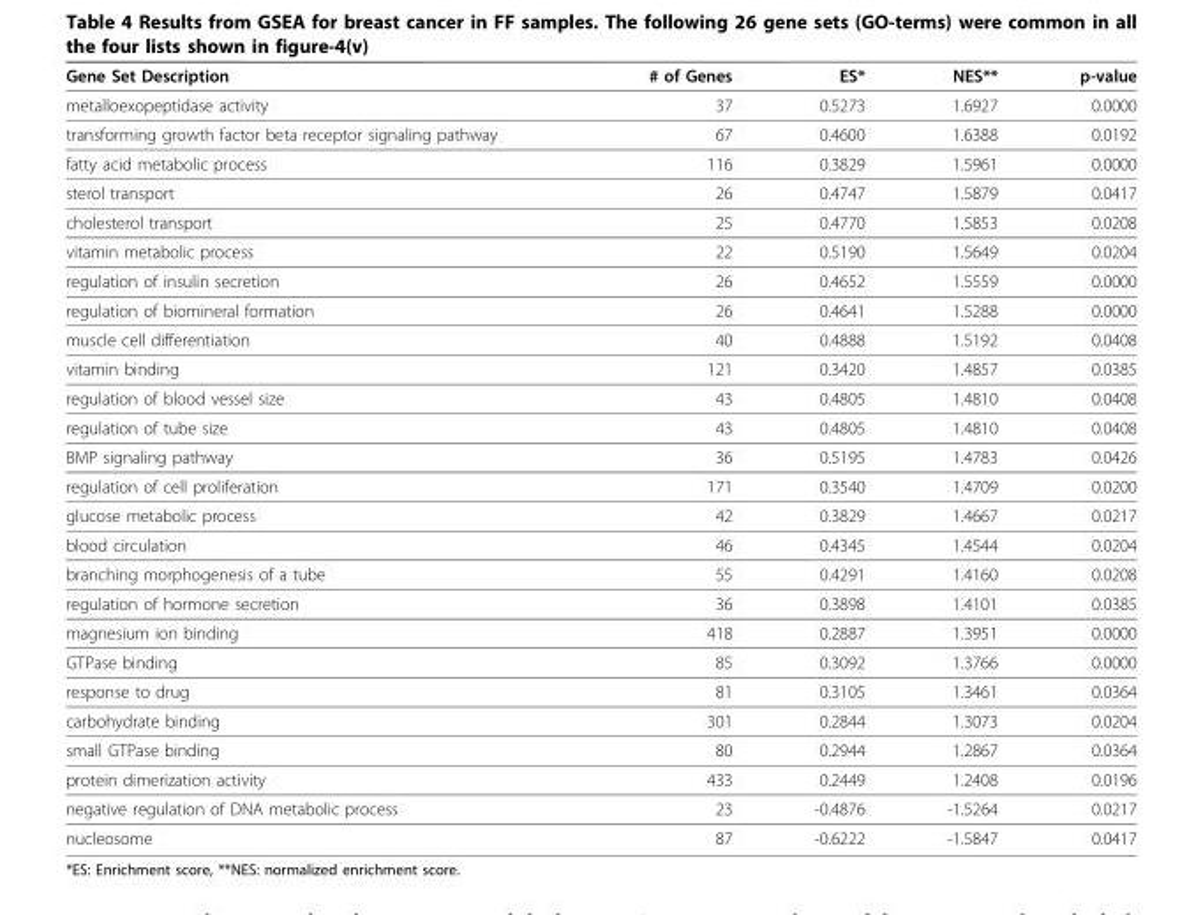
<table><thead><tr><td>Gene Set Description</td><td># of Genes</td><td>ES*</td><td>NES**</td><td>p-value</td></tr></thead><tbody><tr><td>metalloexopeptidase activity</td><td>37</td><td>0.5273</td><td>1.6927</td><td>0.0000</td></tr><tr><td>transforming growth factor beta receptor signaling pathway</td><td>67</td><td>0.4600</td><td>1.6388</td><td>0.0192</td></tr><tr><td>fatty acid metabolic process</td><td>116</td><td>0.3829</td><td>1.5961</td><td>0.0000</td></tr><tr><td>sterol transport</td><td>26</td><td>0.4747</td><td>1.5879</td><td>0.0417</td></tr><tr><td>cholesterol transport</td><td>25</td><td>0.4770</td><td>1.5853</td><td>0.0208</td></tr><tr><td>vitamin metabolic process</td><td>22</td><td>0.5190</td><td>1.5649</td><td>0.0204</td></tr><tr><td>regulation of insulin secretion</td><td>26</td><td>0.4652</td><td>1.5559</td><td>0.0000</td></tr><tr><td>regulation of biomineral formation</td><td>26</td><td>0.4641</td><td>1.5288</td><td>0.0000</td></tr><tr><td>muscle cell differentiation</td><td>40</td><td>0.4888</td><td>1.5192</td><td>0.0408</td></tr><tr><td>vitamin binding</td><td>121</td><td>0.3420</td><td>1.4857</td><td>0.0385</td></tr><tr><td>regulation of blood vessel size</td><td>43</td><td>0.4805</td><td>1.4810</td><td>0.0408</td></tr><tr><td>regulation of tube size</td><td>43</td><td>0.4805</td><td>1.4810</td><td>0.0408</td></tr><tr><td>BMP signaling pathway</td><td>36</td><td>0.5195</td><td>1.4783</td><td>0.0426</td></tr><tr><td>regulation of cell proliferation</td><td>171</td><td>0.3540</td><td>1.4709</td><td>0.0200</td></tr><tr><td>glucose metabolic process</td><td>42</td><td>0.3829</td><td>1.4667</td><td>0.0217</td></tr><tr><td>blood circulation</td><td>46</td><td>0.4345</td><td>1.4544</td><td>0.0204</td></tr><tr><td>branching morphogenesis of a tube</td><td>55</td><td>0.4291</td><td>1.4160</td><td>0.0208</td></tr><tr><td>regulation of hormone secretion</td><td>36</td><td>0.3898</td><td>1.4101</td><td>0.0385</td></tr><tr><td>magnesium ion binding</td><td>418</td><td>0.2887</td><td>1.3951</td><td>0.0000</td></tr><tr><td>GTPase binding</td><td>85</td><td>0.3092</td><td>1.3766</td><td>0.0000</td></tr><tr><td>response to drug</td><td>81</td><td>0.3105</td><td>1.3461</td><td>0.0364</td></tr><tr><td>carbohydrate binding</td><td>301</td><td>0.2844</td><td>1.3073</td><td>0.0204</td></tr><tr><td>small GTPase binding</td><td>80</td><td>0.2944</td><td>1.2867</td><td>0.0364</td></tr><tr><td>protein dimerization activity</td><td>433</td><td>0.2449</td><td>1.2408</td><td>0.0196</td></tr><tr><td>negative regulation of DNA metabolic process</td><td>23</td><td>-0.4876</td><td>-1.5264</td><td>0.0217</td></tr><tr><td>nucleosome</td><td>87</td><td>-0.6222</td><td>-1.5847</td><td>0.0417</td></tr></tbody></table>